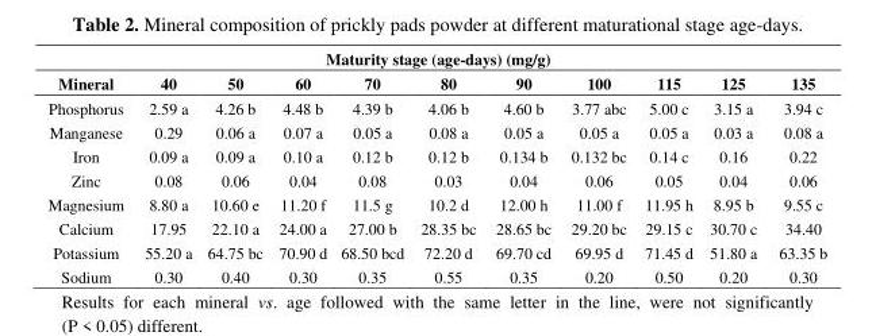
<table><thead><tr><td colspan="11">Maturity stage (age-days) (mg/g)</td></tr><tr><td>Mineral</td><td>40</td><td>50</td><td>60</td><td>70</td><td>80</td><td>90</td><td>100</td><td>115</td><td>125</td><td>135</td></tr></thead><tbody><tr><td>Phosphorus</td><td>2.59 a</td><td>4.26 b</td><td>4.48 b</td><td>4.39 b</td><td>4.06 b</td><td>4.60 b</td><td>3.77 abc</td><td>5.00 c</td><td>3.15 a</td><td>3.94 c</td></tr><tr><td>Manganese</td><td>0.29</td><td>0.06 a</td><td>0.07 a</td><td>0.05 a</td><td>0.08 a</td><td>0.05 a</td><td>0.05 a</td><td>0.05 a</td><td>0.03 a</td><td>0.08 a</td></tr><tr><td>Iron</td><td>0.09 a</td><td>0.09 a</td><td>0.10 a</td><td>0.12 b</td><td>0.12 b</td><td>0.134 b</td><td>0.132 bc</td><td>0.14 c</td><td>0.16</td><td>0.22</td></tr><tr><td>Zinc</td><td>0.08</td><td>0.06</td><td>0.04</td><td>0.08</td><td>0.03</td><td>0.04</td><td>0.06</td><td>0.05</td><td>0.04</td><td>0.06</td></tr><tr><td>Magnesium</td><td>8.80 a</td><td>10.60 e</td><td>11.20 f</td><td>11.5 g</td><td>10.2 d</td><td>12.00 h</td><td>11.00 f</td><td>11.95 h</td><td>8.95 b</td><td>9.55 c</td></tr><tr><td>Calcium</td><td>17.95</td><td>22.10 a</td><td>24.00 a</td><td>27.00 b</td><td>28.35 bc</td><td>28.65 bc</td><td>29.20 bc</td><td>29.15 c</td><td>30.70 c</td><td>34.40</td></tr><tr><td>Potassium</td><td>55.20 a</td><td>64.75 bc</td><td>70.90 d</td><td>68.50 bcd</td><td>72.20 d</td><td>69.70 cd</td><td>69.95 d</td><td>71.45 d</td><td>51.80 a</td><td>63.35 b</td></tr><tr><td>Sodium</td><td>0.30</td><td>0.40</td><td>0.30</td><td>0.35</td><td>0.55</td><td>0.35</td><td>0.20</td><td>0.50</td><td>0.20</td><td>0.30</td></tr></tbody></table>